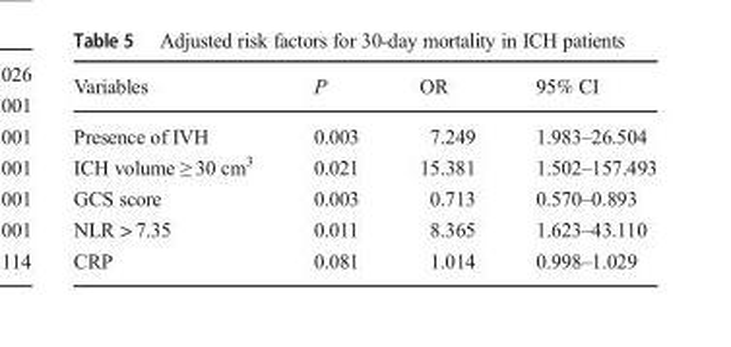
<table><thead><tr><td>Variables</td><td>P</td><td>OR</td><td>95% CI</td></tr></thead><tbody><tr><td>Presence of IVH</td><td>0.003</td><td>7.249</td><td>1.983–26.504</td></tr><tr><td>ICH volume ≥ 30 cm<sup>3</sup></td><td>0.021</td><td>15.381</td><td>1.502–157.493</td></tr><tr><td>GCS score</td><td>0.003</td><td>0.713</td><td>0.570–0.893</td></tr><tr><td>NLR &gt; 7.35</td><td>0.011</td><td>8.365</td><td>1.623–43.110</td></tr><tr><td>CRP</td><td>0.081</td><td>1.014</td><td>0.998–1.029</td></tr></tbody></table>